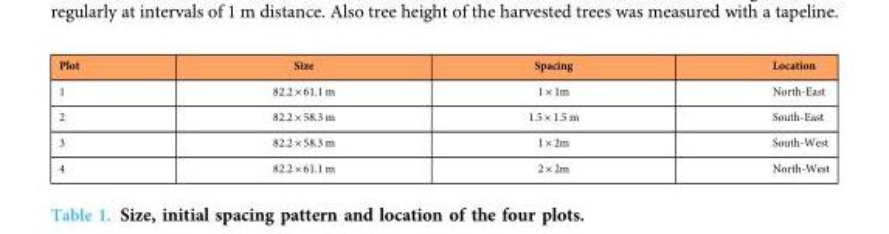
<table><thead><tr><td>Plot</td><td>Size</td><td>Spacing</td><td>Location</td></tr></thead><tbody><tr><td>1</td><td>82.2 × 61.1 m</td><td>1 × 1m</td><td>North-East</td></tr><tr><td>2</td><td>82.2 × 58.3 m</td><td>1.5 × 1.5 m</td><td>South-East</td></tr><tr><td>3</td><td>82.2 × 58.3 m</td><td>1 × 2m</td><td>South-West</td></tr><tr><td>4</td><td>82.2 × 61.1 m</td><td>2 × 2m</td><td>North-West</td></tr></tbody></table>